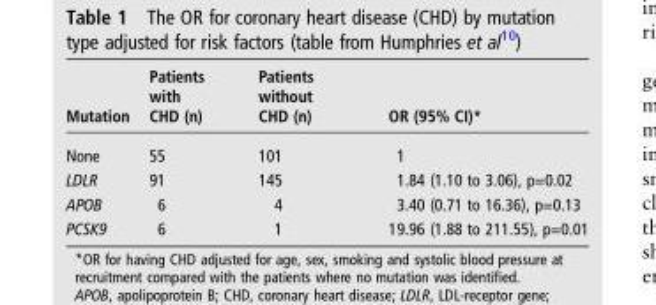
<table><thead><tr><td>Mutation</td><td>Patients with CHD (n)</td><td>Patients without CHD (n)</td><td>OR (95% CI)*</td></tr></thead><tbody><tr><td>None</td><td>55</td><td>101</td><td>1</td></tr><tr><td>LDLR</td><td>91</td><td>145</td><td>1.84 (1.10 to 3.06), p=0.02</td></tr><tr><td>APOB</td><td>6</td><td>4</td><td>3.40 (0.71 to 16.36), p=0.13</td></tr><tr><td>PCSK9</td><td>6</td><td>1</td><td>19.96 (1.88 to 211.55), p=0.01</td></tr></tbody></table>